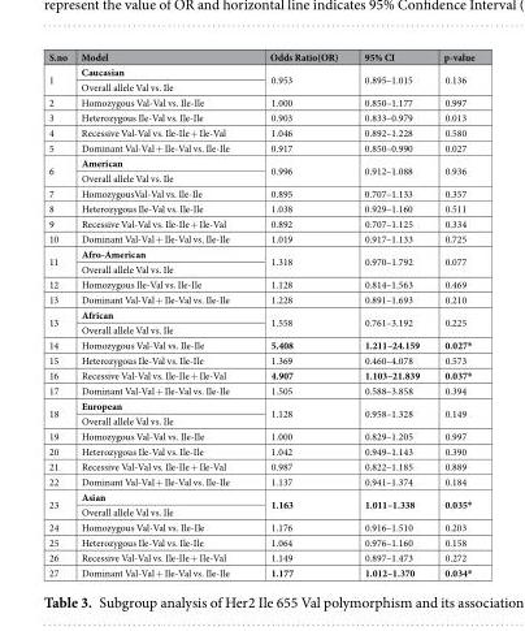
<table><thead><tr><td>S.no</td><td>Model</td><td>Odds Ratio(OR)</td><td>95% CI</td><td>p-value</td></tr></thead><tbody><tr><td rowspan="2">1</td><td>Caucasian</td><td rowspan="2">0.953</td><td rowspan="2">0.895–1.015</td><td rowspan="2">0.136</td></tr><tr><td>Overall allele Val vs. Ile</td></tr><tr><td>2</td><td>Homozygous Val-Val vs. Ile-Ile</td><td>1.000</td><td>0.850–1.177</td><td>0.997</td></tr><tr><td>3</td><td>Heterozygous Ile-Val vs. Ile-Ile</td><td>0.903</td><td>0.833–0.979</td><td>0.013</td></tr><tr><td>4</td><td>Recessive Val-Val vs. Ile-Ile + Ile-Val</td><td>1.046</td><td>0.892–1.228</td><td>0.580</td></tr><tr><td>5</td><td>Dominant Val-Val + Ile-Val vs. Ile-Ile</td><td>0.917</td><td>0.850–0.990</td><td>0.027</td></tr><tr><td rowspan="2">6</td><td>American</td><td rowspan="2">0.996</td><td rowspan="2">0.912–1.088</td><td rowspan="2">0.936</td></tr><tr><td>Overall allele Val vs. Ile</td></tr><tr><td>7</td><td>HomozygousVal-Val vs. Ile-Ile</td><td>0.895</td><td>0.707–1.133</td><td>0.357</td></tr><tr><td>8</td><td>Heterozygous Ile-Val vs. Ile-Ile</td><td>1.038</td><td>0.929–1.160</td><td>0.511</td></tr><tr><td>9</td><td>Recessive Val-Val vs. Ile-Ile + Ile-Val</td><td>0.892</td><td>0.707–1.125</td><td>0.334</td></tr><tr><td>10</td><td>Dominant Val-Val + Ile-Val vs. Ile-Ile</td><td>1.019</td><td>0.917–1.133</td><td>0.725</td></tr><tr><td rowspan="2">11</td><td>Afro-American</td><td rowspan="2">1.318</td><td rowspan="2">0.970–1.792</td><td rowspan="2">0.077</td></tr><tr><td>Overall allele Val vs. Ile</td></tr><tr><td>12</td><td>Homozygous Ile-Val vs. Ile-Ile</td><td>1.128</td><td>0.814–1.563</td><td>0.469</td></tr><tr><td>13</td><td>Dominant Val-Val + Ile-Val vs. Ile-Ile</td><td>1.228</td><td>0.891–1.693</td><td>0.210</td></tr><tr><td rowspan="2">13</td><td>African</td><td rowspan="2">1.558</td><td rowspan="2">0.761–3.192</td><td rowspan="2">0.225</td></tr><tr><td>Overall allele Val vs. Ile</td></tr><tr><td>14</td><td>Homozygous Val-Val vs. Ile-Ile</td><td>5.408</td><td>1.211–24.159</td><td>0.027*</td></tr><tr><td>15</td><td>Heterozygous Ile-Val vs. Ile-Ile</td><td>1.369</td><td>0.460–4.078</td><td>0.573</td></tr><tr><td>16</td><td>Recessive Val-Val vs. Ile-Ile + Ile-Val</td><td>4.907</td><td>1.103–21.839</td><td>0.037*</td></tr><tr><td>17</td><td>Dominant Val-Val + Ile-Val vs. Ile-Ile</td><td>1.505</td><td>0.588–3.858</td><td>0.394</td></tr><tr><td rowspan="2">18</td><td>European</td><td rowspan="2">1.128</td><td rowspan="2">0.958–1.328</td><td rowspan="2">0.149</td></tr><tr><td>Overall allele Val vs. Ile</td></tr><tr><td>19</td><td>Homozygous Val-Val vs. Ile-Ile</td><td>1.000</td><td>0.829–1.205</td><td>0.997</td></tr><tr><td>20</td><td>Heterozygous Ile-Val vs. Ile-Ile</td><td>1.042</td><td>0.949–1.143</td><td>0.390</td></tr><tr><td>21</td><td>Recessive Val-Val vs. Ile-Ile + Ile-Val</td><td>0.987</td><td>0.822–1.185</td><td>0.889</td></tr><tr><td>22</td><td>Dominant Val-Val + Ile-Val vs. Ile-Ile</td><td>1.137</td><td>0.941–1.374</td><td>0.184</td></tr><tr><td rowspan="2">23</td><td>Asian</td><td rowspan="2">1.163</td><td rowspan="2">1.011–1.338</td><td rowspan="2">0.035*</td></tr><tr><td>Overall allele Val vs. Ile</td></tr><tr><td>24</td><td>Homozygous Val-Val vs. Ile-Ile</td><td>1.176</td><td>0.916–1.510</td><td>0.203</td></tr><tr><td>25</td><td>Heterozygous Ile-Val vs. Ile-Ile</td><td>1.064</td><td>0.976–1.160</td><td>0.158</td></tr><tr><td>26</td><td>Recessive Val-Val vs. Ile-Ile + Ile-Val</td><td>1.149</td><td>0.897–1.473</td><td>0.272</td></tr><tr><td>27</td><td>Dominant Val-Val + Ile-Val vs. Ile-Ile</td><td>1.177</td><td>1.012–1.370</td><td>0.034*</td></tr></tbody></table>